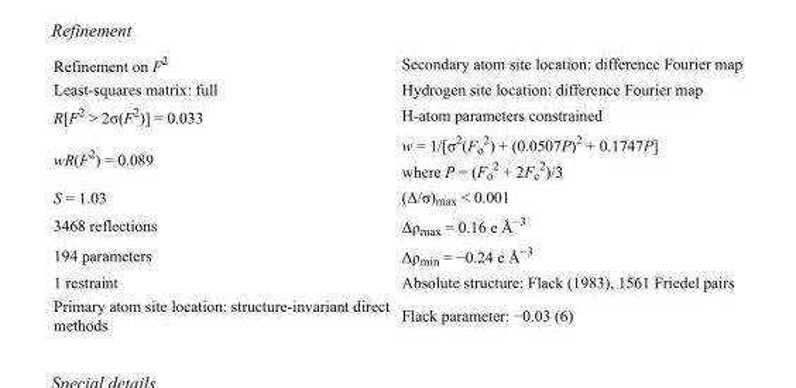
<table><tbody><tr><td>Refinement on F<sup>2</sup></td><td>Secondary atom site location: difference Fourier map</td></tr><tr><td>Least-squares matrix: full</td><td>Hydrogen site location: difference Fourier map</td></tr><tr><td>R[F<sup>2</sup> &gt; 2σ(F<sup>2</sup>)] = 0.033</td><td>H-atom parameters constrained</td></tr><tr><td>wR(F<sup>2</sup>) = 0.089</td><td>w = 1/[σ<sup>2</sup>(F<sub>o</sub> <sup>2</sup>) + (0.0507P)<sup>2</sup> + 0.1747P] where P = (F<sub>o</sub> <sup>2</sup> + 2F<sub>c</sub> <sup>2</sup>)/3</td></tr><tr><td>S = 1.03</td><td>(Δ/σ)<sub>max</sub> &lt; 0.001</td></tr><tr><td>3468 reflections</td><td>Δρ<sub>max</sub> = 0.16 e Å<sup>−3</sup></td></tr><tr><td>194 parameters</td><td>Δρ<sub>min</sub> = −0.24 e Å<sup>−3</sup></td></tr><tr><td>1 restraint</td><td>Absolute structure: Flack (1983), 1561 Friedel pairs</td></tr><tr><td>Primary atom site location: structure-invariant direct methods</td><td>Flack parameter: −0.03 (6)</td></tr></tbody></table>